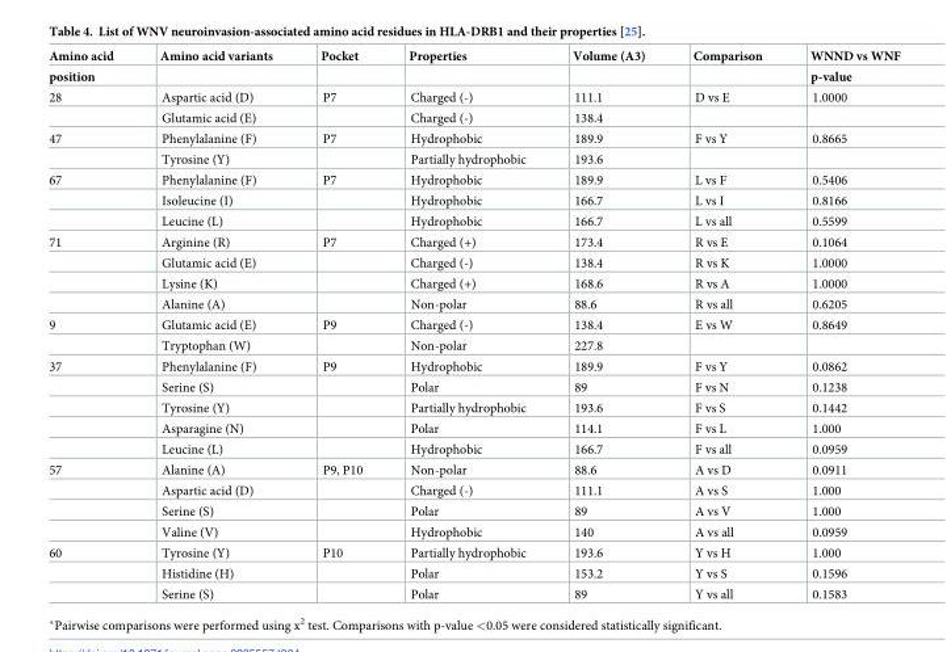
<table><thead><tr><td rowspan="2">Amino acid position</td><td rowspan="2">Amino acid variants</td><td rowspan="2">Pocket</td><td rowspan="2">Properties</td><td rowspan="2">Volume (A3)</td><td rowspan="2">Comparison</td><td rowspan="2">WNND vs WNF p-value</td></tr><tr></tr></thead><tbody><tr><td rowspan="2">28</td><td>Aspartic acid (D)</td><td>P7</td><td>Charged (-)</td><td>111.1</td><td>D vs E</td><td>1.0000</td></tr><tr><td>Glutamic acid (E)</td><td></td><td>Charged (-)</td><td>138.4</td><td></td><td></td></tr><tr><td rowspan="2">47</td><td>Phenylalanine (F)</td><td>P7</td><td>Hydrophobic</td><td>189.9</td><td>F vs Y</td><td>0.8665</td></tr><tr><td>Tyrosine (Y)</td><td></td><td>Partially hydrophobic</td><td>193.6</td><td></td><td></td></tr><tr><td rowspan="3">67</td><td>Phenylalanine (F)</td><td>P7</td><td>Hydrophobic</td><td>189.9</td><td>L vs F</td><td>0.5406</td></tr><tr><td>Isoleucine (I)</td><td></td><td>Hydrophobic</td><td>166.7</td><td>L vs I</td><td>0.8166</td></tr><tr><td>Leucine (L)</td><td></td><td>Hydrophobic</td><td>166.7</td><td>L vs all</td><td>0.5599</td></tr><tr><td rowspan="4">71</td><td>Arginine (R)</td><td>P7</td><td>Charged (+)</td><td>173.4</td><td>R vs E</td><td>0.1064</td></tr><tr><td>Glutamic acid (E)</td><td></td><td>Charged (-)</td><td>138.4</td><td>R vs K</td><td>1.0000</td></tr><tr><td>Lysine (K)</td><td></td><td>Charged (+)</td><td>168.6</td><td>R vs A</td><td>1.0000</td></tr><tr><td>Alanine (A)</td><td></td><td>Non-polar</td><td>88.6</td><td>R vs all</td><td>0.6205</td></tr><tr><td rowspan="2">9</td><td>Glutamic acid (E)</td><td>P9</td><td>Charged (-)</td><td>138.4</td><td>E vs W</td><td>0.8649</td></tr><tr><td>Tryptophan (W)</td><td></td><td>Non-polar</td><td>227.8</td><td></td><td></td></tr><tr><td rowspan="5">37</td><td>Phenylalanine (F)</td><td>P9</td><td>Hydrophobic</td><td>189.9</td><td>F vs Y</td><td>0.0862</td></tr><tr><td>Serine (S)</td><td></td><td>Polar</td><td>89</td><td>F vs N</td><td>0.1238</td></tr><tr><td>Tyrosine (Y)</td><td></td><td>Partially hydrophobic</td><td>193.6</td><td>F vs S</td><td>0.1442</td></tr><tr><td>Asparagine (N)</td><td></td><td>Polar</td><td>114.1</td><td>F vs L</td><td>1.000</td></tr><tr><td>Leucine (L)</td><td></td><td>Hydrophobic</td><td>166.7</td><td>F vs all</td><td>0.0959</td></tr><tr><td rowspan="4">57</td><td>Alanine (A)</td><td>P9, P10</td><td>Non-polar</td><td>88.6</td><td>A vs D</td><td>0.0911</td></tr><tr><td>Aspartic acid (D)</td><td></td><td>Charged (-)</td><td>111.1</td><td>A vs S</td><td>1.000</td></tr><tr><td>Serine (S)</td><td></td><td>Polar</td><td>89</td><td>A vs V</td><td>1.000</td></tr><tr><td>Valine (V)</td><td></td><td>Hydrophobic</td><td>140</td><td>A vs all</td><td>0.0959</td></tr><tr><td rowspan="3">60</td><td>Tyrosine (Y)</td><td>P10</td><td>Partially hydrophobic</td><td>193.6</td><td>Y vs H</td><td>1.000</td></tr><tr><td>Histidine (H)</td><td></td><td>Polar</td><td>153.2</td><td>Y vs S</td><td>0.1596</td></tr><tr><td>Serine (S)</td><td></td><td>Polar</td><td>89</td><td>Y vs all</td><td>0.1583</td></tr></tbody></table>